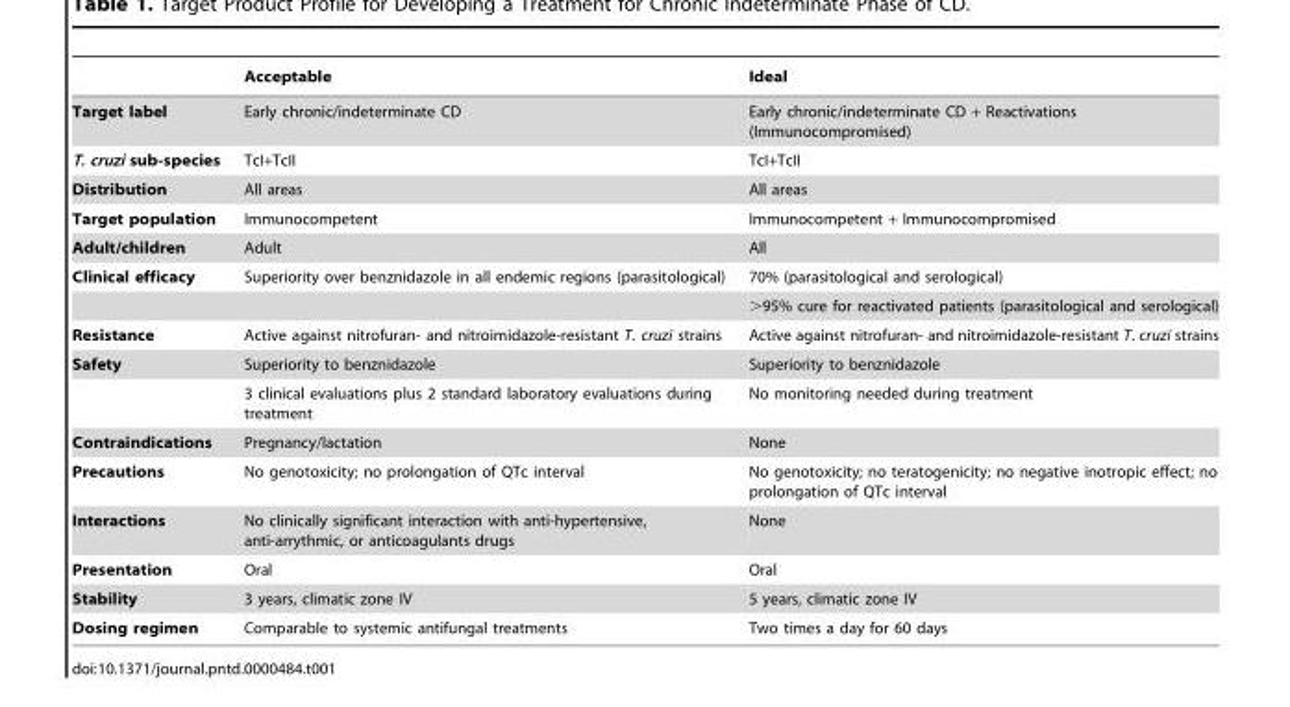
<table><thead><tr><td></td><td>Acceptable</td><td>Ideal</td></tr></thead><tbody><tr><td>Target label</td><td>Early chronic/indeterminate CD</td><td>Early chronic/indeterminate CD + Reactivations (Immunocompromised)</td></tr><tr><td>T. cruzi sub-species</td><td>TcI+TcII</td><td>TcI+TcII</td></tr><tr><td>Distribution</td><td>All areas</td><td>All areas</td></tr><tr><td>Target population</td><td>Immunocompetent</td><td>Immunocompetent + Immunocompromised</td></tr><tr><td>Adult/children</td><td>Adult</td><td>All</td></tr><tr><td rowspan="2">Clinical efficacy</td><td>Superiority over benznidazole in all endemic regions (parasitological)</td><td>70% (parasitological and serological)</td></tr><tr><td></td><td>&gt;95% cure for reactivated patients (parasitological and serological)</td></tr><tr><td>Resistance</td><td>Active against nitrofuran- and nitroimidazole-resistant T. cruzi strains</td><td>Active against nitrofuran- and nitroimidazole-resistant T. cruzi strains</td></tr><tr><td rowspan="2">Safety</td><td>Superiority to benznidazole</td><td>Superiority to benznidazole</td></tr><tr><td>3 clinical evaluations plus 2 standard laboratory evaluations during treatment</td><td>No monitoring needed during treatment</td></tr><tr><td>Contraindications</td><td>Pregnancy/lactation</td><td>None</td></tr><tr><td>Precautions</td><td>No genotoxicity; no prolongation of QTc interval</td><td>No genotoxicity; no teratogenicity; no negative inotropic effect; no prolongation of QTc interval</td></tr><tr><td>Interactions</td><td>No clinically significant interaction with anti-hypertensive, anti-arrythmic, or anticoagulants drugs</td><td>None</td></tr><tr><td>Presentation</td><td>Oral</td><td>Oral</td></tr><tr><td>Stability</td><td>3 years, climatic zone IV</td><td>5 years, climatic zone IV</td></tr><tr><td>Dosing regimen</td><td>Comparable to systemic antifungal treatments</td><td>Two times a day for 60 days</td></tr></tbody></table>